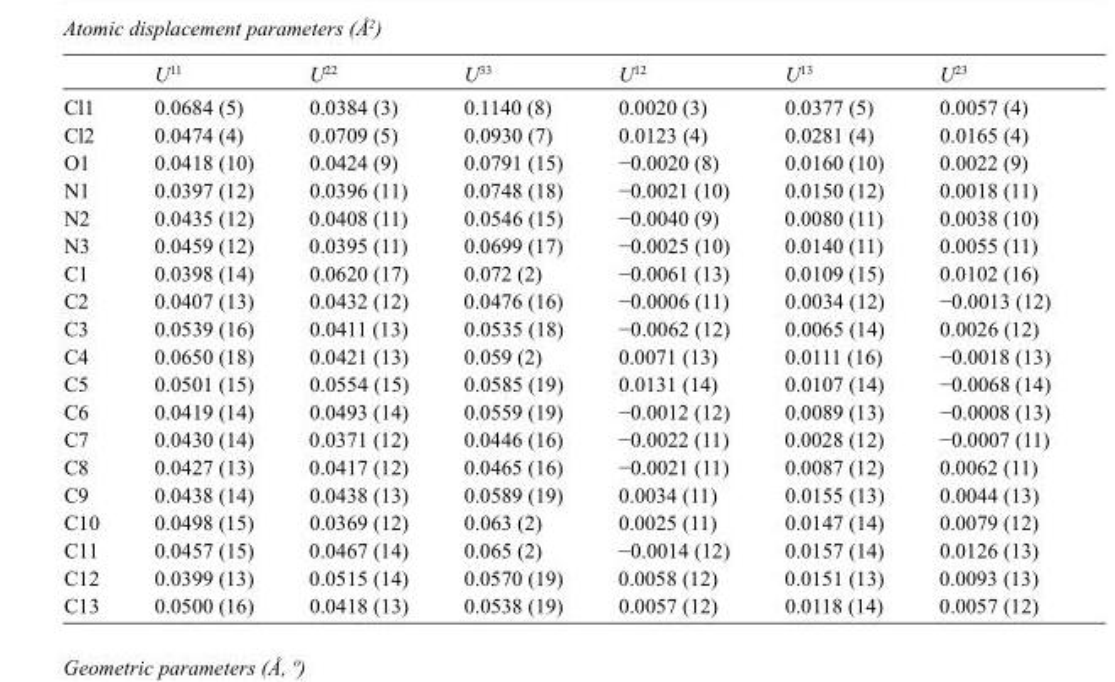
<table><thead><tr><td></td><td>U<sup>11</sup></td><td>U<sup>22</sup></td><td>U<sup>33</sup></td><td>U<sup>12</sup></td><td>U<sup>13</sup></td><td>U<sup>23</sup></td></tr></thead><tbody><tr><td>Cl1</td><td>0.0684 (5)</td><td>0.0384 (3)</td><td>0.1140 (8)</td><td>0.0020 (3)</td><td>0.0377 (5)</td><td>0.0057 (4)</td></tr><tr><td>Cl2</td><td>0.0474 (4)</td><td>0.0709 (5)</td><td>0.0930 (7)</td><td>0.0123 (4)</td><td>0.0281 (4)</td><td>0.0165 (4)</td></tr><tr><td>O1</td><td>0.0418 (10)</td><td>0.0424 (9)</td><td>0.0791 (15)</td><td>−0.0020 (8)</td><td>0.0160 (10)</td><td>0.0022 (9)</td></tr><tr><td>N1</td><td>0.0397 (12)</td><td>0.0396 (11)</td><td>0.0748 (18)</td><td>−0.0021 (10)</td><td>0.0150 (12)</td><td>0.0018 (11)</td></tr><tr><td>N2</td><td>0.0435 (12)</td><td>0.0408 (11)</td><td>0.0546 (15)</td><td>−0.0040 (9)</td><td>0.0080 (11)</td><td>0.0038 (10)</td></tr><tr><td>N3</td><td>0.0459 (12)</td><td>0.0395 (11)</td><td>0.0699 (17)</td><td>−0.0025 (10)</td><td>0.0140 (11)</td><td>0.0055 (11)</td></tr><tr><td>C1</td><td>0.0398 (14)</td><td>0.0620 (17)</td><td>0.072 (2)</td><td>−0.0061 (13)</td><td>0.0109 (15)</td><td>0.0102 (16)</td></tr><tr><td>C2</td><td>0.0407 (13)</td><td>0.0432 (12)</td><td>0.0476 (16)</td><td>−0.0006 (11)</td><td>0.0034 (12)</td><td>−0.0013 (12)</td></tr><tr><td>C3</td><td>0.0539 (16)</td><td>0.0411 (13)</td><td>0.0535 (18)</td><td>−0.0062 (12)</td><td>0.0065 (14)</td><td>0.0026 (12)</td></tr><tr><td>C4</td><td>0.0650 (18)</td><td>0.0421 (13)</td><td>0.059 (2)</td><td>0.0071 (13)</td><td>0.0111 (16)</td><td>−0.0018 (13)</td></tr><tr><td>C5</td><td>0.0501 (15)</td><td>0.0554 (15)</td><td>0.0585 (19)</td><td>0.0131 (14)</td><td>0.0107 (14)</td><td>−0.0068 (14)</td></tr><tr><td>C6</td><td>0.0419 (14)</td><td>0.0493 (14)</td><td>0.0559 (19)</td><td>−0.0012 (12)</td><td>0.0089 (13)</td><td>−0.0008 (13)</td></tr><tr><td>C7</td><td>0.0430 (14)</td><td>0.0371 (12)</td><td>0.0446 (16)</td><td>−0.0022 (11)</td><td>0.0028 (12)</td><td>−0.0007 (11)</td></tr><tr><td>C8</td><td>0.0427 (13)</td><td>0.0417 (12)</td><td>0.0465 (16)</td><td>−0.0021 (11)</td><td>0.0087 (12)</td><td>0.0062 (11)</td></tr><tr><td>C9</td><td>0.0438 (14)</td><td>0.0438 (13)</td><td>0.0589 (19)</td><td>0.0034 (11)</td><td>0.0155 (13)</td><td>0.0044 (13)</td></tr><tr><td>C10</td><td>0.0498 (15)</td><td>0.0369 (12)</td><td>0.063 (2)</td><td>0.0025 (11)</td><td>0.0147 (14)</td><td>0.0079 (12)</td></tr><tr><td>C11</td><td>0.0457 (15)</td><td>0.0467 (14)</td><td>0.065 (2)</td><td>−0.0014 (12)</td><td>0.0157 (14)</td><td>0.0126 (13)</td></tr><tr><td>C12</td><td>0.0399 (13)</td><td>0.0515 (14)</td><td>0.0570 (19)</td><td>0.0058 (12)</td><td>0.0151 (13)</td><td>0.0093 (13)</td></tr><tr><td>C13</td><td>0.0500 (16)</td><td>0.0418 (13)</td><td>0.0538 (19)</td><td>0.0057 (12)</td><td>0.0118 (14)</td><td>0.0057 (12)</td></tr></tbody></table>